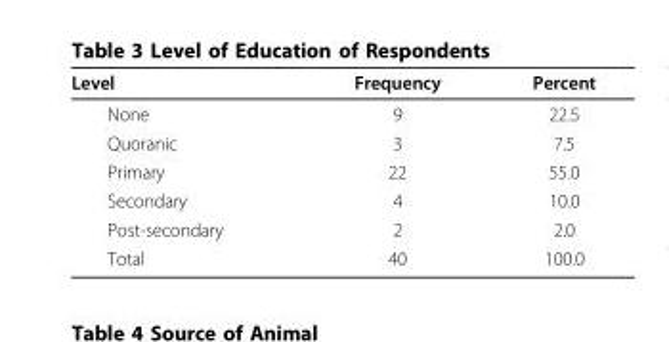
<table><thead><tr><td>Level</td><td>Frequency</td><td>Percent</td></tr></thead><tbody><tr><td>None</td><td>9</td><td>22.5</td></tr><tr><td>Quoranic</td><td>3</td><td>7.5</td></tr><tr><td>Primary</td><td>22</td><td>55.0</td></tr><tr><td>Secondary</td><td>4</td><td>10.0</td></tr><tr><td>Post-secondary</td><td>2</td><td>2.0</td></tr><tr><td>Total</td><td>40</td><td>100.0</td></tr></tbody></table>